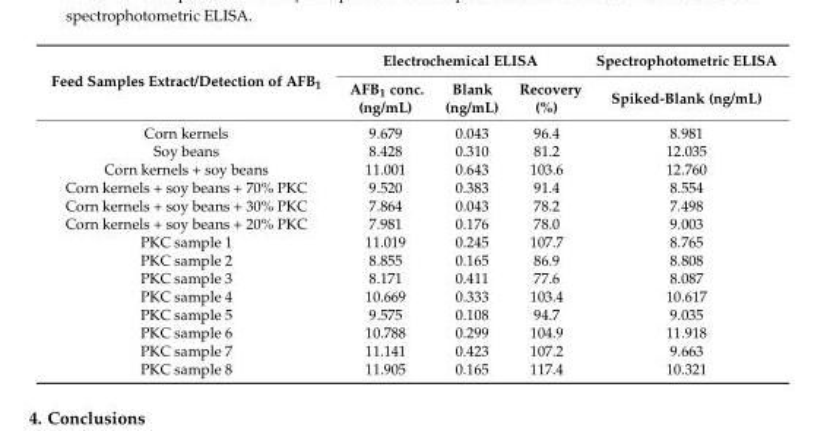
<table><thead><tr><td rowspan="2">Feed Samples Extract/Detection of AFB<sub>1</sub></td><td colspan="3">Electrochemical ELISA</td><td rowspan="2">Spectrophotometric ELISA Spiked-Blank (ng/mL)</td></tr><tr><td>AFB<sub>1</sub> conc. (ng/mL)</td><td>Blank (ng/mL)</td><td>Recovery (%)</td></tr></thead><tbody><tr><td>Corn kernels</td><td>9.679</td><td>0.043</td><td>96.4</td><td>8.981</td></tr><tr><td>Soy beans</td><td>8.428</td><td>0.310</td><td>81.2</td><td>12.035</td></tr><tr><td>Corn kernels + soy beans</td><td>11.001</td><td>0.643</td><td>103.6</td><td>12.760</td></tr><tr><td>Corn kernels + soy beans + 70% PKC</td><td>9.520</td><td>0.383</td><td>91.4</td><td>8.554</td></tr><tr><td>Corn kernels + soy beans + 30% PKC</td><td>7.864</td><td>0.043</td><td>78.2</td><td>7.498</td></tr><tr><td>Corn kernels + soy beans + 20% PKC</td><td>7.981</td><td>0.176</td><td>78.0</td><td>9.003</td></tr><tr><td>PKC sample 1</td><td>11.019</td><td>0.245</td><td>107.7</td><td>8.765</td></tr><tr><td>PKC sample 2</td><td>8.855</td><td>0.165</td><td>86.9</td><td>8.808</td></tr><tr><td>PKC sample 3</td><td>8.171</td><td>0.411</td><td>77.6</td><td>8.087</td></tr><tr><td>PKC sample 4</td><td>10.669</td><td>0.333</td><td>103.4</td><td>10.617</td></tr><tr><td>PKC sample 5</td><td>9.575</td><td>0.108</td><td>94.7</td><td>9.035</td></tr><tr><td>PKC sample 6</td><td>10.788</td><td>0.299</td><td>104.9</td><td>11.918</td></tr><tr><td>PKC sample 7</td><td>11.141</td><td>0.423</td><td>107.2</td><td>9.663</td></tr><tr><td>PKC sample 8</td><td>11.905</td><td>0.165</td><td>117.4</td><td>10.321</td></tr></tbody></table>